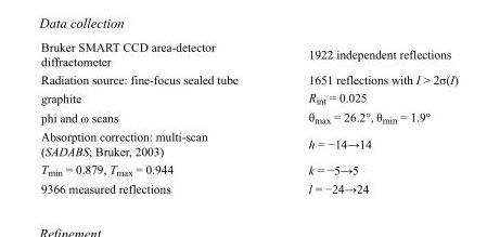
<table><tbody><tr><td>Bruker SMART CCD area-detector diffractometer</td><td>1922 independent reflections</td></tr><tr><td>Radiation source: fine-focus sealed tube</td><td>1651 reflections with I &gt; 2σ(I)</td></tr><tr><td>graphite</td><td>R<sub>int</sub> = 0.025</td></tr><tr><td>phi and ω scans</td><td>θ<sub>max</sub> = 26.2°, θ<sub>min</sub> = 1.9°</td></tr><tr><td>Absorption correction: multi-scan (SADABS; Bruker, 2003)</td><td>h = −14→14</td></tr><tr><td>T<sub>min</sub> = 0.879, T<sub>max</sub> = 0.944</td><td>k = −5→5</td></tr><tr><td>9366 measured reflections</td><td>l = −24→24</td></tr></tbody></table>